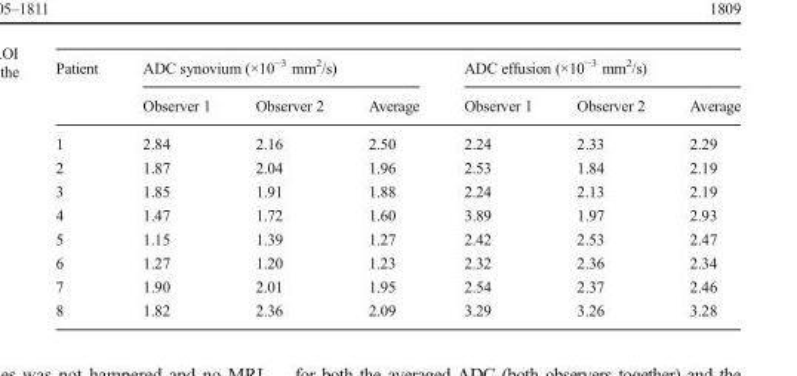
<table><thead><tr><td rowspan="2">Patient</td><td colspan="3">ADC synovium (×10<sup>−3</sup> mm<sup>2</sup>/s)</td><td colspan="3">ADC effusion (×10<sup>−3</sup> mm<sup>2</sup>/s)</td></tr><tr><td>Observer 1</td><td>Observer 2</td><td>Average</td><td>Observer 1</td><td>Observer 2</td><td>Average</td></tr></thead><tbody><tr><td>1</td><td>2.84</td><td>2.16</td><td>2.50</td><td>2.24</td><td>2.33</td><td>2.29</td></tr><tr><td>2</td><td>1.87</td><td>2.04</td><td>1.96</td><td>2.53</td><td>1.84</td><td>2.19</td></tr><tr><td>3</td><td>1.85</td><td>1.91</td><td>1.88</td><td>2.24</td><td>2.13</td><td>2.19</td></tr><tr><td>4</td><td>1.47</td><td>1.72</td><td>1.60</td><td>3.89</td><td>1.97</td><td>2.93</td></tr><tr><td>5</td><td>1.15</td><td>1.39</td><td>1.27</td><td>2.42</td><td>2.53</td><td>2.47</td></tr><tr><td>6</td><td>1.27</td><td>1.20</td><td>1.23</td><td>2.32</td><td>2.36</td><td>2.34</td></tr><tr><td>7</td><td>1.90</td><td>2.01</td><td>1.95</td><td>2.54</td><td>2.37</td><td>2.46</td></tr><tr><td>8</td><td>1.82</td><td>2.36</td><td>2.09</td><td>3.29</td><td>3.26</td><td>3.28</td></tr></tbody></table>